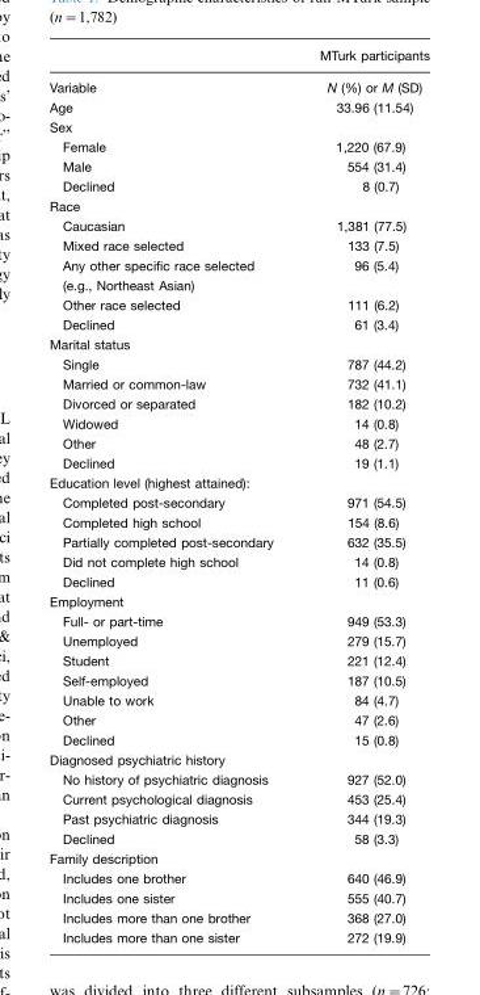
<table><thead><tr><td></td><td>MTurk participants</td></tr></thead><tbody><tr><td>Variable</td><td>N (%) or M (SD)</td></tr><tr><td>Age</td><td>33.96 (11.54)</td></tr><tr><td colspan="2">Sex</td></tr><tr><td>Female</td><td>1,220 (67.9)</td></tr><tr><td>Male</td><td>554 (31.4)</td></tr><tr><td>Declined</td><td>8 (0.7)</td></tr><tr><td colspan="2">Race</td></tr><tr><td>Caucasian</td><td>1,381 (77.5)</td></tr><tr><td>Mixed race selected</td><td>133 (7.5)</td></tr><tr><td>Any other specific race selected (e.g., Northeast Asian)</td><td>96 (5.4)</td></tr><tr><td>Other race selected</td><td>111 (6.2)</td></tr><tr><td>Declined</td><td>61 (3.4)</td></tr><tr><td colspan="2">Marital status</td></tr><tr><td>Single</td><td>787 (44.2)</td></tr><tr><td>Married or common-law</td><td>732 (41.1)</td></tr><tr><td>Divorced or separated</td><td>182 (10.2)</td></tr><tr><td>Widowed</td><td>14 (0.8)</td></tr><tr><td>Other</td><td>48 (2.7)</td></tr><tr><td>Declined</td><td>19 (1.1)</td></tr><tr><td colspan="2">Education level (highest attained):</td></tr><tr><td>Completed post-secondary</td><td>971 (54.5)</td></tr><tr><td>Completed high school</td><td>154 (8.6)</td></tr><tr><td>Partially completed post-secondary</td><td>632 (35.5)</td></tr><tr><td>Did not complete high school</td><td>14 (0.8)</td></tr><tr><td>Declined</td><td>11 (0.6)</td></tr><tr><td colspan="2">Employment</td></tr><tr><td>Full- or part-time</td><td>949 (53.3)</td></tr><tr><td>Unemployed</td><td>279 (15.7)</td></tr><tr><td>Student</td><td>221 (12.4)</td></tr><tr><td>Self-employed</td><td>187 (10.5)</td></tr><tr><td>Unable to work</td><td>84 (4.7)</td></tr><tr><td>Other</td><td>47 (2.6)</td></tr><tr><td>Declined</td><td>15 (0.8)</td></tr><tr><td colspan="2">Diagnosed psychiatric history</td></tr><tr><td>No history of psychiatric diagnosis</td><td>927 (52.0)</td></tr><tr><td>Current psychological diagnosis</td><td>453 (25.4)</td></tr><tr><td>Past psychiatric diagnosis</td><td>344 (19.3)</td></tr><tr><td>Declined</td><td>58 (3.3)</td></tr><tr><td colspan="2">Family description</td></tr><tr><td>Includes one brother</td><td>640 (46.9)</td></tr><tr><td>Includes one sister</td><td>555 (40.7)</td></tr><tr><td>Includes more than one brother</td><td>368 (27.0)</td></tr><tr><td>Includes more than one sister</td><td>272 (19.9)</td></tr></tbody></table>